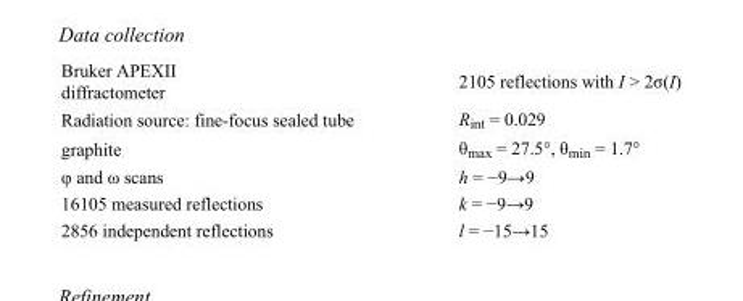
<table><tbody><tr><td>Bruker APEXII diffractometer</td><td>2105 reflections with I &gt; 2σ(I)</td></tr><tr><td>Radiation source: fine-focus sealed tube</td><td>R<sub>int</sub> = 0.029</td></tr><tr><td>graphite</td><td>θ<sub>max</sub> = 27.5°, θ<sub>min</sub> = 1.7°</td></tr><tr><td>φ and ω scans</td><td>h = −9→9</td></tr><tr><td>16105 measured reflections</td><td>k = −9→9</td></tr><tr><td>2856 independent reflections</td><td>l = −15→15</td></tr></tbody></table>